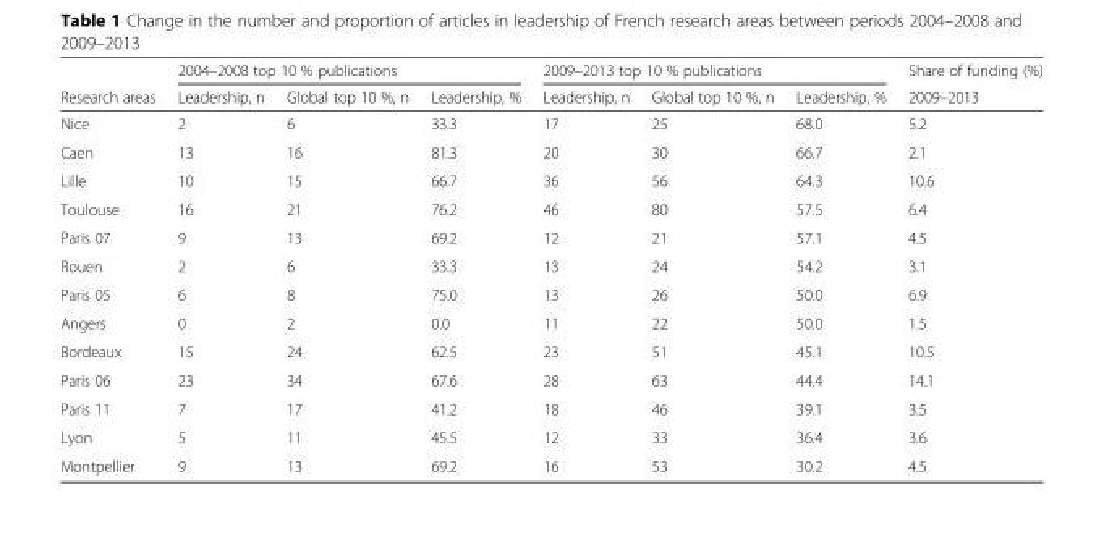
<table><thead><tr><td rowspan="2">Research areas</td><td colspan="3">2004–2008 top 10 % publications</td><td colspan="3">2009–2013 top 10 % publications</td><td rowspan="2">Share of funding (%) 2009–2013</td></tr><tr><td>Leadership, n</td><td>Global top 10 %, n</td><td>Leadership, %</td><td>Leadership, n</td><td>Global top 10 %, n</td><td>Leadership, %</td></tr></thead><tbody><tr><td>Nice</td><td>2</td><td>6</td><td>33.3</td><td>17</td><td>25</td><td>68.0</td><td>5.2</td></tr><tr><td>Caen</td><td>13</td><td>16</td><td>81.3</td><td>20</td><td>30</td><td>66.7</td><td>2.1</td></tr><tr><td>Lille</td><td>10</td><td>15</td><td>66.7</td><td>36</td><td>56</td><td>64.3</td><td>10.6</td></tr><tr><td>Toulouse</td><td>16</td><td>21</td><td>76.2</td><td>46</td><td>80</td><td>57.5</td><td>6.4</td></tr><tr><td>Paris 07</td><td>9</td><td>13</td><td>69.2</td><td>12</td><td>21</td><td>57.1</td><td>4.5</td></tr><tr><td>Rouen</td><td>2</td><td>6</td><td>33.3</td><td>13</td><td>24</td><td>54.2</td><td>3.1</td></tr><tr><td>Paris 05</td><td>6</td><td>8</td><td>75.0</td><td>13</td><td>26</td><td>50.0</td><td>6.9</td></tr><tr><td>Angers</td><td>0</td><td>2</td><td>0.0</td><td>11</td><td>22</td><td>50.0</td><td>1.5</td></tr><tr><td>Bordeaux</td><td>15</td><td>24</td><td>62.5</td><td>23</td><td>51</td><td>45.1</td><td>10.5</td></tr><tr><td>Paris 06</td><td>23</td><td>34</td><td>67.6</td><td>28</td><td>63</td><td>44.4</td><td>14.1</td></tr><tr><td>Paris 11</td><td>7</td><td>17</td><td>41.2</td><td>18</td><td>46</td><td>39.1</td><td>3.5</td></tr><tr><td>Lyon</td><td>5</td><td>11</td><td>45.5</td><td>12</td><td>33</td><td>36.4</td><td>3.6</td></tr><tr><td>Montpellier</td><td>9</td><td>13</td><td>69.2</td><td>16</td><td>53</td><td>30.2</td><td>4.5</td></tr></tbody></table>